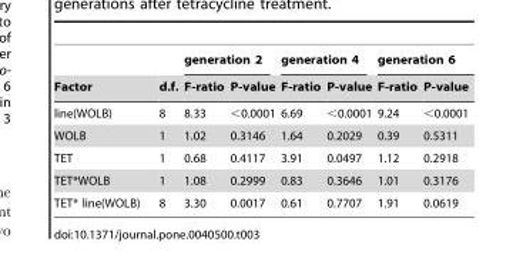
<table><thead><tr><td rowspan="2">Factor</td><td rowspan="2">d.f.</td><td colspan="2">generation 2</td><td colspan="2">generation 4</td><td colspan="2">generation 6</td></tr><tr><td>F-ratio</td><td>P-value</td><td>F-ratio</td><td>P-value</td><td>F-ratio</td><td>P-value</td></tr></thead><tbody><tr><td>line(WOLB)</td><td>8</td><td>8.33</td><td>&lt;0.0001</td><td>6.69</td><td>&lt;0.0001</td><td>9.24</td><td>&lt;0.0001</td></tr><tr><td>WOLB</td><td>1</td><td>1.02</td><td>0.3146</td><td>1.64</td><td>0.2029</td><td>0.39</td><td>0.5311</td></tr><tr><td>TET</td><td>1</td><td>0.68</td><td>0.4117</td><td>3.91</td><td>0.0497</td><td>1.12</td><td>0.2918</td></tr><tr><td>TET*WOLB</td><td>1</td><td>1.08</td><td>0.2999</td><td>0.83</td><td>0.3646</td><td>1.01</td><td>0.3176</td></tr><tr><td>TET* line(WOLB)</td><td>8</td><td>3.30</td><td>0.0017</td><td>0.61</td><td>0.7707</td><td>1.91</td><td>0.0619</td></tr></tbody></table>